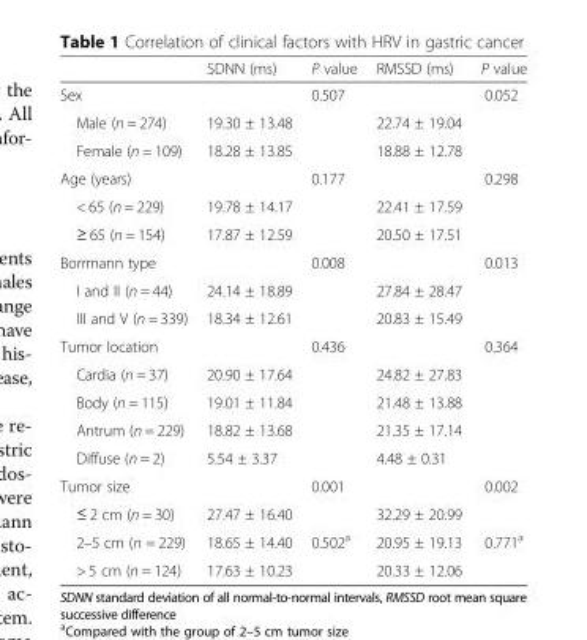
<table><thead><tr><td></td><td>SDNN (ms)</td><td>P value</td><td>RMSSD (ms)</td><td>P value</td></tr></thead><tbody><tr><td>Sex</td><td></td><td>0.507</td><td></td><td>0.052</td></tr><tr><td>Male (n = 274)</td><td>19.30 ± 13.48</td><td></td><td>22.74 ± 19.04</td><td></td></tr><tr><td>Female (n = 109)</td><td>18.28 ± 13.85</td><td></td><td>18.88 ± 12.78</td><td></td></tr><tr><td>Age (years)</td><td></td><td>0.177</td><td></td><td>0.298</td></tr><tr><td>&lt; 65 (n = 229)</td><td>19.78 ± 14.17</td><td></td><td>22.41 ± 17.59</td><td></td></tr><tr><td>≥ 65 (n = 154)</td><td>17.87 ± 12.59</td><td></td><td>20.50 ± 17.51</td><td></td></tr><tr><td>Borrmann type</td><td></td><td>0.008</td><td></td><td>0.013</td></tr><tr><td>I and II (n = 44)</td><td>24.14 ± 18.89</td><td></td><td>27.84 ± 28.47</td><td></td></tr><tr><td>III and V (n = 339)</td><td>18.34 ± 12.61</td><td></td><td>20.83 ± 15.49</td><td></td></tr><tr><td>Tumor location</td><td></td><td>0.436</td><td></td><td>0.364</td></tr><tr><td>Cardia (n = 37)</td><td>20.90 ± 17.64</td><td></td><td>24.82 ± 27.83</td><td></td></tr><tr><td>Body (n = 115)</td><td>19.01 ± 11.84</td><td></td><td>21.48 ± 13.88</td><td></td></tr><tr><td>Antrum (n = 229)</td><td>18.82 ± 13.68</td><td></td><td>21.35 ± 17.14</td><td></td></tr><tr><td>Diffuse (n = 2)</td><td>5.54 ± 3.37</td><td></td><td>4.48 ± 0.31</td><td></td></tr><tr><td>Tumor size</td><td></td><td>0.001</td><td></td><td>0.002</td></tr><tr><td>≤ 2 cm (n = 30)</td><td>27.47 ± 16.40</td><td></td><td>32.29 ± 20.99</td><td></td></tr><tr><td>2–5 cm (n = 229)</td><td>18.65 ± 14.40</td><td>0.502<sup>a</sup></td><td>20.95 ± 19.13</td><td>0.771<sup>a</sup></td></tr><tr><td>&gt; 5 cm (n = 124)</td><td>17.63 ± 10.23</td><td></td><td>20.33 ± 12.06</td><td></td></tr></tbody></table>